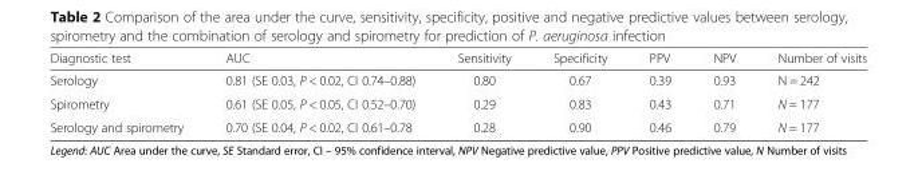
<table><thead><tr><td>Diagnostic test</td><td>AUC</td><td>Sensitivity</td><td>Specificity</td><td>PPV</td><td>NPV</td><td>Number of visits</td></tr></thead><tbody><tr><td>Serology</td><td>0.81 (SE 0.03, P &lt; 0.02, CI 0.74–0.88)</td><td>0.80</td><td>0.67</td><td>0.39</td><td>0.93</td><td>N = 242</td></tr><tr><td>Spirometry</td><td>0.61 (SE 0.05, P &lt; 0.05, CI 0.52–0.70)</td><td>0.29</td><td>0.83</td><td>0.43</td><td>0.71</td><td>N = 177</td></tr><tr><td>Serology and spirometry</td><td>0.70 (SE 0.04, P &lt; 0.02, CI 0.61–0.78</td><td>0.28</td><td>0.90</td><td>0.46</td><td>0.79</td><td>N = 177</td></tr></tbody></table>